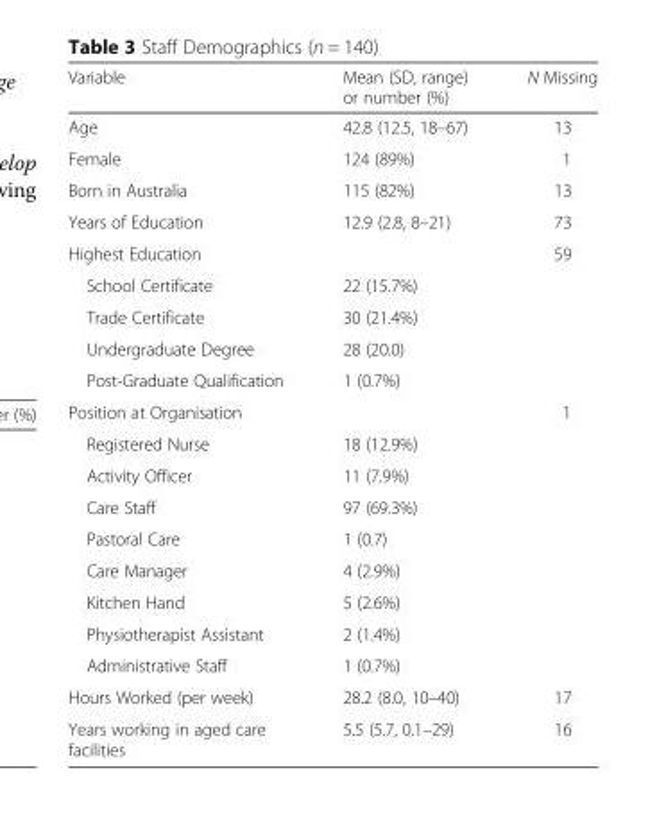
<table><thead><tr><td>Variable</td><td>Mean (SD, range) or number (%)</td><td>N Missing</td></tr></thead><tbody><tr><td>Age</td><td>42.8 (12.5, 18–67)</td><td>13</td></tr><tr><td>Female</td><td>124 (89%)</td><td>1</td></tr><tr><td>Born in Australia</td><td>115 (82%)</td><td>13</td></tr><tr><td>Years of Education</td><td>12.9 (2.8, 8–21)</td><td>73</td></tr><tr><td>Highest Education</td><td></td><td>59</td></tr><tr><td>School Certificate</td><td>22 (15.7%)</td><td></td></tr><tr><td>Trade Certificate</td><td>30 (21.4%)</td><td></td></tr><tr><td>Undergraduate Degree</td><td>28 (20.0)</td><td></td></tr><tr><td>Post-Graduate Qualification</td><td>1 (0.7%)</td><td></td></tr><tr><td>Position at Organisation</td><td></td><td>1</td></tr><tr><td>Registered Nurse</td><td>18 (12.9%)</td><td></td></tr><tr><td>Activity Officer</td><td>11 (7.9%)</td><td></td></tr><tr><td>Care Staff</td><td>97 (69.3%)</td><td></td></tr><tr><td>Pastoral Care</td><td>1 (0.7)</td><td></td></tr><tr><td>Care Manager</td><td>4 (2.9%)</td><td></td></tr><tr><td>Kitchen Hand</td><td>5 (2.6%)</td><td></td></tr><tr><td>Physiotherapist Assistant</td><td>2 (1.4%)</td><td></td></tr><tr><td>Administrative Staff</td><td>1 (0.7%)</td><td></td></tr><tr><td>Hours Worked (per week)</td><td>28.2 (8.0, 10–40)</td><td>17</td></tr><tr><td>Years working in aged care facilities</td><td>5.5 (5.7, 0.1–29)</td><td>16</td></tr></tbody></table>